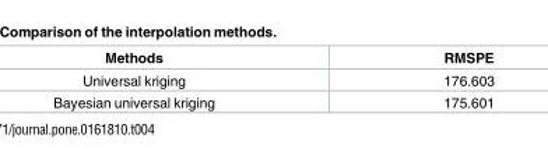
<table><thead><tr><td>Methods</td><td>RMSPE</td></tr></thead><tbody><tr><td>Universal kriging</td><td>176.603</td></tr><tr><td>Bayesian universal kriging</td><td>175.601</td></tr></tbody></table>